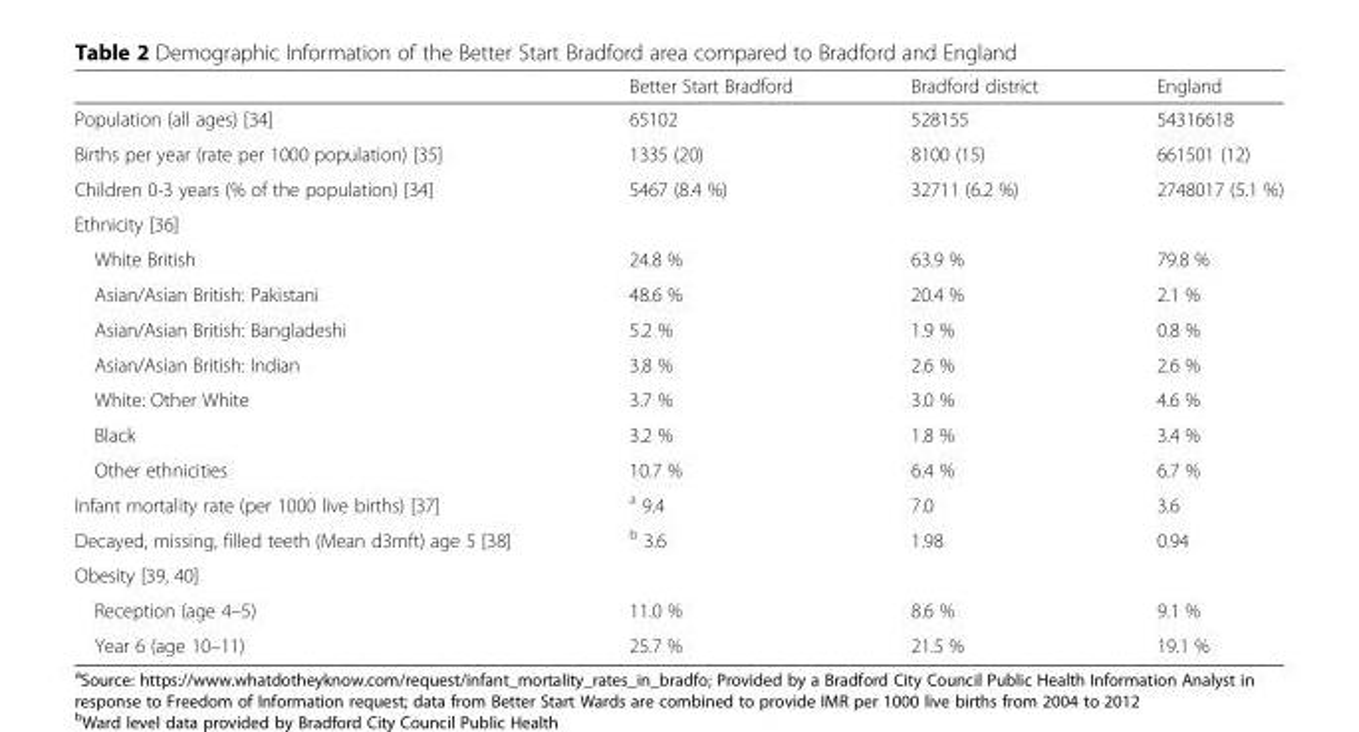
<table><thead><tr><td></td><td>Better Start Bradford</td><td>Bradford district</td><td>England</td></tr></thead><tbody><tr><td>Population (all ages) [34]</td><td>65102</td><td>528155</td><td>54316618</td></tr><tr><td>Births per year (rate per 1000 population) [35]</td><td>1335 (20)</td><td>8100 (15)</td><td>661501 (12)</td></tr><tr><td>Children 0-3 years (% of the population) [34]</td><td>5467 (8.4 %)</td><td>32711 (6.2 %)</td><td>2748017 (5.1 %)</td></tr><tr><td colspan="4">Ethnicity [36]</td></tr><tr><td>White British</td><td>24.8 %</td><td>63.9 %</td><td>79.8 %</td></tr><tr><td>Asian/Asian British: Pakistani</td><td>48.6 %</td><td>20.4 %</td><td>2.1 %</td></tr><tr><td>Asian/Asian British: Bangladeshi</td><td>5.2 %</td><td>1.9 %</td><td>0.8 %</td></tr><tr><td>Asian/Asian British: Indian</td><td>3.8 %</td><td>2.6 %</td><td>2.6 %</td></tr><tr><td>White: Other White</td><td>3.7 %</td><td>3.0 %</td><td>4.6 %</td></tr><tr><td>Black</td><td>3.2 %</td><td>1.8 %</td><td>3.4 %</td></tr><tr><td>Other ethnicities</td><td>10.7 %</td><td>6.4 %</td><td>6.7 %</td></tr><tr><td>Infant mortality rate (per 1000 live births) [37]</td><td><sup>a</sup> 9.4</td><td>7.0</td><td>3.6</td></tr><tr><td>Decayed, missing, filled teeth (Mean d3mft) age 5 [38]</td><td><sup>b</sup> 3.6</td><td>1.98</td><td>0.94</td></tr><tr><td colspan="4">Obesity [39, 40]</td></tr><tr><td>Reception (age 4–5)</td><td>11.0 %</td><td>8.6 %</td><td>9.1 %</td></tr><tr><td>Year 6 (age 10–11)</td><td>25.7 %</td><td>21.5 %</td><td>19.1 %</td></tr></tbody></table>